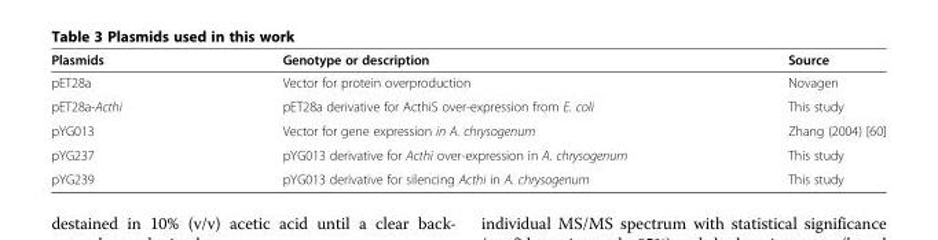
<table><thead><tr><td>Plasmids</td><td>Genotype or description</td><td>Source</td></tr></thead><tbody><tr><td>pET28a</td><td>Vector for protein overproduction</td><td>Novagen</td></tr><tr><td>pET28a-Acthi</td><td>pET28a derivative for ActhiS over-expression from E. coli</td><td>This study</td></tr><tr><td>pYG013</td><td>Vector for gene expression in A. chrysogenum</td><td>Zhang (2004) [60]</td></tr><tr><td>pYG237</td><td>pYG013 derivative for Acthi over-expression in A. chrysogenum</td><td>This study</td></tr><tr><td>pYG239</td><td>pYG013 derivative for silencing Acthi in A. chrysogenum</td><td>This study</td></tr></tbody></table>